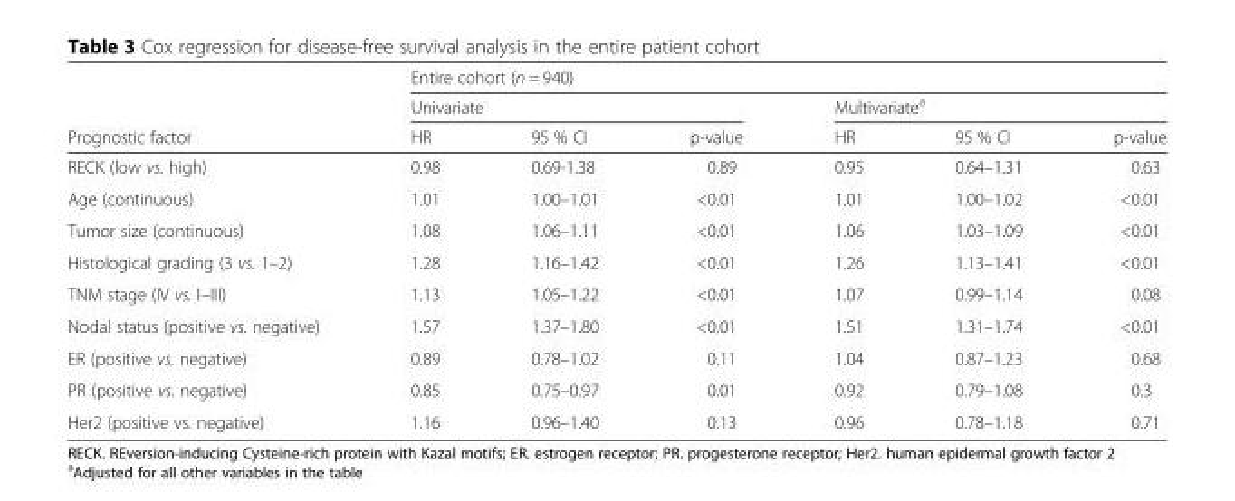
<table><thead><tr><td rowspan="3">Prognostic factor</td><td colspan="6">Entire cohort (n = 940)</td></tr><tr><td colspan="3">Univariate</td><td colspan="3">Multivariate<sup>a</sup></td></tr><tr><td>HR</td><td>95 % CI</td><td>p-value</td><td>HR</td><td>95 % CI</td><td>p-value</td></tr></thead><tbody><tr><td>RECK (low vs. high)</td><td>0.98</td><td>0.69-1.38</td><td>0.89</td><td>0.95</td><td>0.64–1.31</td><td>0.63</td></tr><tr><td>Age (continuous)</td><td>1.01</td><td>1.00–1.01</td><td>&lt;0.01</td><td>1.01</td><td>1.00–1.02</td><td>&lt;0.01</td></tr><tr><td>Tumor size (continuous)</td><td>1.08</td><td>1.06–1.11</td><td>&lt;0.01</td><td>1.06</td><td>1.03–1.09</td><td>&lt;0.01</td></tr><tr><td>Histological grading (3 vs. 1–2)</td><td>1.28</td><td>1.16–1.42</td><td>&lt;0.01</td><td>1.26</td><td>1.13–1.41</td><td>&lt;0.01</td></tr><tr><td>TNM stage (IV vs. I–III)</td><td>1.13</td><td>1.05–1.22</td><td>&lt;0.01</td><td>1.07</td><td>0.99–1.14</td><td>0.08</td></tr><tr><td>Nodal status (positive vs. negative)</td><td>1.57</td><td>1.37–1.80</td><td>&lt;0.01</td><td>1.51</td><td>1.31–1.74</td><td>&lt;0.01</td></tr><tr><td>ER (positive vs. negative)</td><td>0.89</td><td>0.78–1.02</td><td>0.11</td><td>1.04</td><td>0.87–1.23</td><td>0.68</td></tr><tr><td>PR (positive vs. negative)</td><td>0.85</td><td>0.75–0.97</td><td>0.01</td><td>0.92</td><td>0.79–1.08</td><td>0.3</td></tr><tr><td>Her2 (positive vs. negative)</td><td>1.16</td><td>0.96–1.40</td><td>0.13</td><td>0.96</td><td>0.78–1.18</td><td>0.71</td></tr></tbody></table>